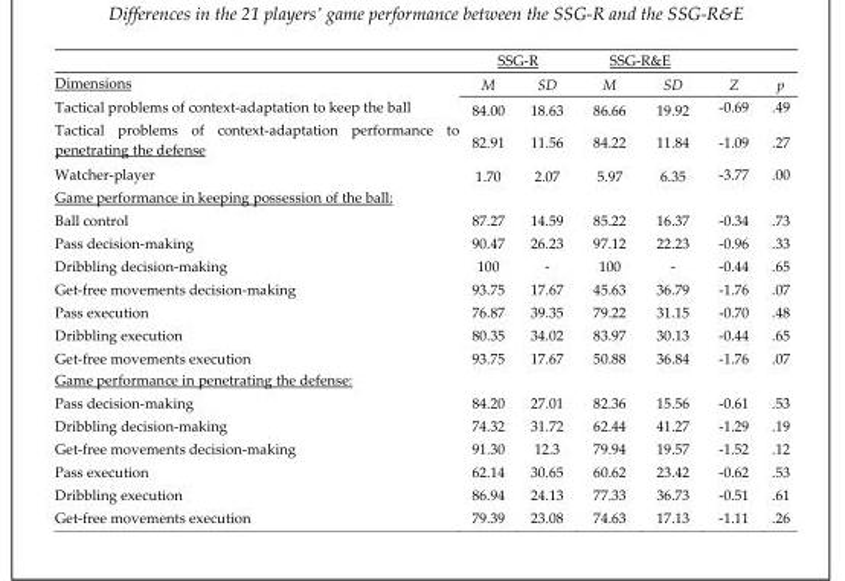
<table><thead><tr><td rowspan="2">Dimensions</td><td colspan="2">SSG-R</td><td colspan="2">SSG-R&amp;E</td><td rowspan="2">Z</td><td rowspan="2">p</td></tr><tr><td>M</td><td>SD</td><td>M</td><td>SD</td></tr></thead><tbody><tr><td>Tactical problems of context-adaptation to keep the ball</td><td>84.00</td><td>18.63</td><td>86.66</td><td>19.92</td><td>-0.69</td><td>.49</td></tr><tr><td>Tactical problems of context-adaptation performance to penetrating the defense</td><td>82.91</td><td>11.56</td><td>84.22</td><td>11.84</td><td>-1.09</td><td>.27</td></tr><tr><td>Watcher-player</td><td>1.70</td><td>2.07</td><td>5.97</td><td>6.35</td><td>-3.77</td><td>.00</td></tr><tr><td colspan="7">Game performance in keeping possession of the ball:</td></tr><tr><td>Ball control</td><td>87.27</td><td>14.59</td><td>85.22</td><td>16.37</td><td>-0.34</td><td>.73</td></tr><tr><td>Pass decision-making</td><td>90.47</td><td>26.23</td><td>97.12</td><td>22.23</td><td>-0.96</td><td>.33</td></tr><tr><td>Dribbling decision-making</td><td>100</td><td>-</td><td>100</td><td>-</td><td>-0.44</td><td>.65</td></tr><tr><td>Get-free movements decision-making</td><td>93.75</td><td>17.67</td><td>45.63</td><td>36.79</td><td>-1.76</td><td>.07</td></tr><tr><td>Pass execution</td><td>76.87</td><td>39.35</td><td>79.22</td><td>31.15</td><td>-0.70</td><td>.48</td></tr><tr><td>Dribbling execution</td><td>80.35</td><td>34.02</td><td>83.97</td><td>30.13</td><td>-0.44</td><td>.65</td></tr><tr><td>Get-free movements execution</td><td>93.75</td><td>17.67</td><td>50.88</td><td>36.84</td><td>-1.76</td><td>.07</td></tr><tr><td colspan="7">Game performance in penetrating the defense:</td></tr><tr><td>Pass decision-making</td><td>84.20</td><td>27.01</td><td>82.36</td><td>15.56</td><td>-0.61</td><td>.53</td></tr><tr><td>Dribbling decision-making</td><td>74.32</td><td>31.72</td><td>62.44</td><td>41.27</td><td>-1.29</td><td>.19</td></tr><tr><td>Get-free movements decision-making</td><td>91.30</td><td>12.3</td><td>79.94</td><td>19.57</td><td>-1.52</td><td>.12</td></tr><tr><td>Pass execution</td><td>62.14</td><td>30.65</td><td>60.62</td><td>23.42</td><td>-0.62</td><td>.53</td></tr><tr><td>Dribbling execution</td><td>86.94</td><td>24.13</td><td>77.33</td><td>36.73</td><td>-0.51</td><td>.61</td></tr><tr><td>Get-free movements execution</td><td>79.39</td><td>23.08</td><td>74.63</td><td>17.13</td><td>-1.11</td><td>.26</td></tr></tbody></table>